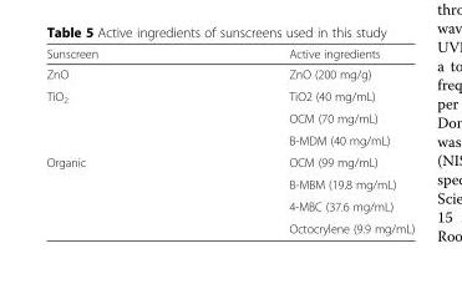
<table><thead><tr><td>Sunscreen</td><td>Active ingredients</td></tr></thead><tbody><tr><td>ZnO</td><td>ZnO (200 mg/g)</td></tr><tr><td rowspan="3">TiO<sub>2</sub></td><td>TiO2 (40 mg/mL)</td></tr><tr><td>OCM (70 mg/mL)</td></tr><tr><td>B-MDM (40 mg/mL)</td></tr><tr><td rowspan="4">Organic</td><td>OCM (99 mg/mL)</td></tr><tr><td>B-MBM (19.8 mg/mL)</td></tr><tr><td>4-MBC (37.6 mg/mL)</td></tr><tr><td>Octocrylene (9.9 mg/mL)</td></tr></tbody></table>